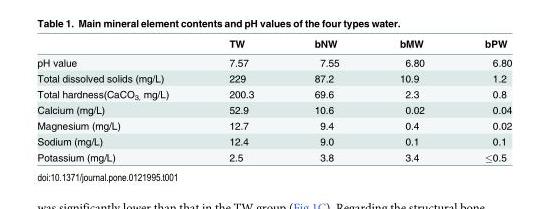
<table><thead><tr><td></td><td>TW</td><td>bNW</td><td>bMW</td><td>bPW</td></tr></thead><tbody><tr><td>pH value</td><td>7.57</td><td>7.55</td><td>6.80</td><td>6.80</td></tr><tr><td>Total dissolved solids (mg/L)</td><td>229</td><td>87.2</td><td>10.9</td><td>1.2</td></tr><tr><td>Total hardness(CaCO<sub>3,</sub> mg/L)</td><td>200.3</td><td>69.6</td><td>2.3</td><td>0.8</td></tr><tr><td>Calcium (mg/L)</td><td>52.9</td><td>10.6</td><td>0.02</td><td>0.04</td></tr><tr><td>Magnesium (mg/L)</td><td>12.7</td><td>9.4</td><td>0.4</td><td>0.02</td></tr><tr><td>Sodium (mg/L)</td><td>12.4</td><td>9.0</td><td>0.1</td><td>0.1</td></tr><tr><td>Potassium (mg/L)</td><td>2.5</td><td>3.8</td><td>3.4</td><td>≤0.5</td></tr></tbody></table>